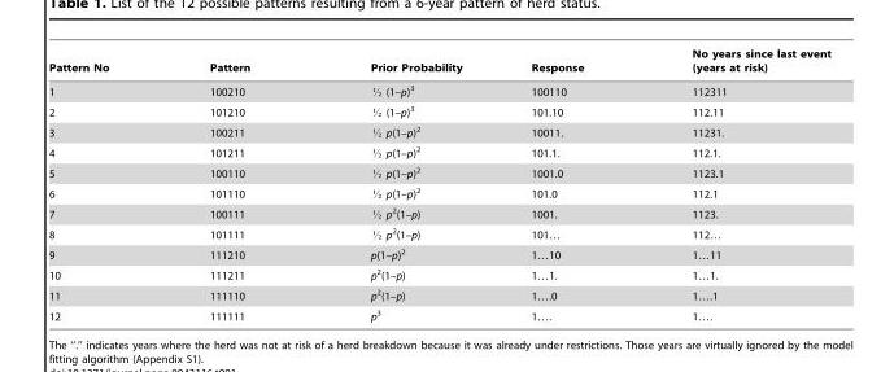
<table><thead><tr><td>Pattern No</td><td>Pattern</td><td>Prior Probability</td><td>Response</td><td>No years since last event (years at risk)</td></tr></thead><tbody><tr><td>1</td><td>100210</td><td>K (1–p)3</td><td>100110</td><td>112311</td></tr><tr><td>2</td><td>101210</td><td>K (1–p)3</td><td>101.10</td><td>112.11</td></tr><tr><td>3</td><td>100211</td><td>K p(1–p)2</td><td>10011.</td><td>11231.</td></tr><tr><td>4</td><td>101211</td><td>K p(1–p)2</td><td>101.1.</td><td>112.1.</td></tr><tr><td>5</td><td>100110</td><td>K p(1–p)2</td><td>1001.0</td><td>1123.1</td></tr><tr><td>6</td><td>101110</td><td>K p(1–p)2</td><td>101.0</td><td>112.1</td></tr><tr><td>7</td><td>100111</td><td>K p2(1–p)</td><td>1001.</td><td>1123.</td></tr><tr><td>8</td><td>101111</td><td>K p2(1–p)</td><td>101…</td><td>112…</td></tr><tr><td>9</td><td>111210</td><td>p(1–p)<sup>2</sup></td><td>1…10</td><td>1…11</td></tr><tr><td>10</td><td>111211</td><td>p<sup>2</sup>(1–p)</td><td>1…1.</td><td>1…1.</td></tr><tr><td>11</td><td>111110</td><td>p<sup>2</sup>(1–p)</td><td>1….0</td><td>1….1</td></tr><tr><td>12</td><td>111111</td><td>p<sup>3</sup></td><td>1….</td><td>1….</td></tr></tbody></table>